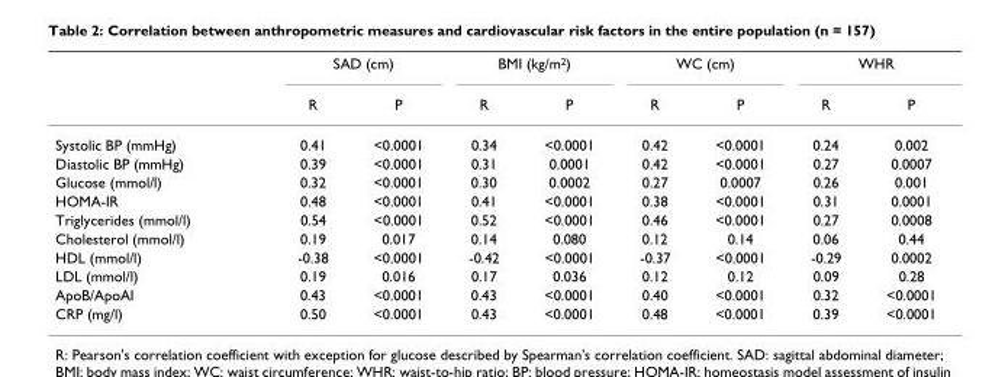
<table><thead><tr><td rowspan="2"></td><td colspan="2">SAD (cm)</td><td colspan="2">BMI (kg/m<sup>2</sup>)</td><td colspan="2">WC (cm)</td><td colspan="2">WHR</td></tr><tr><td>R</td><td>P</td><td>R</td><td>P</td><td>R</td><td>P</td><td>R</td><td>P</td></tr></thead><tbody><tr><td>Systolic BP (mmHg)</td><td>0.41</td><td>&lt;0.0001</td><td>0.34</td><td>&lt;0.0001</td><td>0.42</td><td>&lt;0.0001</td><td>0.24</td><td>0.002</td></tr><tr><td>Diastolic BP (mmHg)</td><td>0.39</td><td>&lt;0.0001</td><td>0.31</td><td>0.0001</td><td>0.42</td><td>&lt;0.0001</td><td>0.27</td><td>0.0007</td></tr><tr><td>Glucose (mmol/l)</td><td>0.32</td><td>&lt;0.0001</td><td>0.30</td><td>0.0002</td><td>0.27</td><td>0.0007</td><td>0.26</td><td>0.001</td></tr><tr><td>HOMA-IR</td><td>0.48</td><td>&lt;0.0001</td><td>0.41</td><td>&lt;0.0001</td><td>0.38</td><td>&lt;0.0001</td><td>0.31</td><td>0.0001</td></tr><tr><td>Triglycerides (mmol/l)</td><td>0.54</td><td>&lt;0.0001</td><td>0.52</td><td>&lt;0.0001</td><td>0.46</td><td>&lt;0.0001</td><td>0.27</td><td>0.0008</td></tr><tr><td>Cholesterol (mmol/l)</td><td>0.19</td><td>0.017</td><td>0.14</td><td>0.080</td><td>0.12</td><td>0.14</td><td>0.06</td><td>0.44</td></tr><tr><td>HDL (mmol/l)</td><td>-0.38</td><td>&lt;0.0001</td><td>-0.42</td><td>&lt;0.0001</td><td>-0.37</td><td>&lt;0.0001</td><td>-0.29</td><td>0.0002</td></tr><tr><td>LDL (mmol/l)</td><td>0.19</td><td>0.016</td><td>0.17</td><td>0.036</td><td>0.12</td><td>0.12</td><td>0.09</td><td>0.28</td></tr><tr><td>ApoB/ApoAI</td><td>0.43</td><td>&lt;0.0001</td><td>0.43</td><td>&lt;0.0001</td><td>0.40</td><td>&lt;0.0001</td><td>0.32</td><td>&lt;0.0001</td></tr><tr><td>CRP (mg/l)</td><td>0.50</td><td>&lt;0.0001</td><td>0.43</td><td>&lt;0.0001</td><td>0.48</td><td>&lt;0.0001</td><td>0.39</td><td>&lt;0.0001</td></tr></tbody></table>